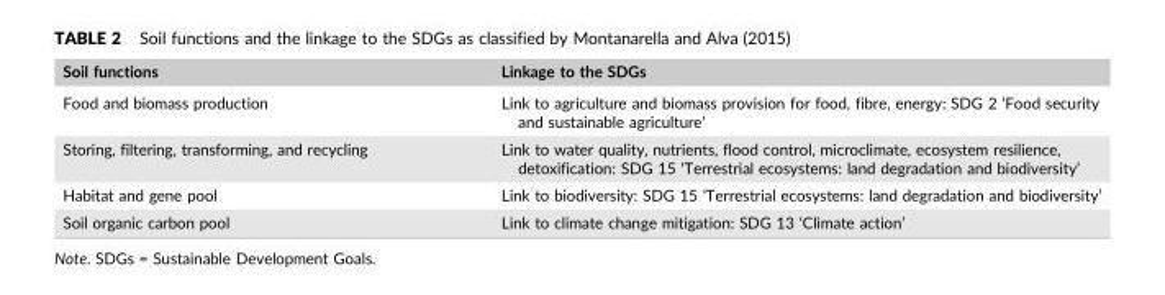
<table><thead><tr><td>Soil functions</td><td>Linkage to the SDGs</td></tr></thead><tbody><tr><td>Food and biomass production</td><td>Link to agriculture and biomass provision for food, fibre, energy: SDG 2 ‘Food security and sustainable agriculture’</td></tr><tr><td>Storing, filtering, transforming, and recycling</td><td>Link to water quality, nutrients, flood control, microclimate, ecosystem resilience, detoxification: SDG 15 ‘Terrestrial ecosystems: land degradation and biodiversity’</td></tr><tr><td>Habitat and gene pool</td><td>Link to biodiversity: SDG 15 ‘Terrestrial ecosystems: land degradation and biodiversity’</td></tr><tr><td>Soil organic carbon pool</td><td>Link to climate change mitigation: SDG 13 ‘Climate action’</td></tr></tbody></table>